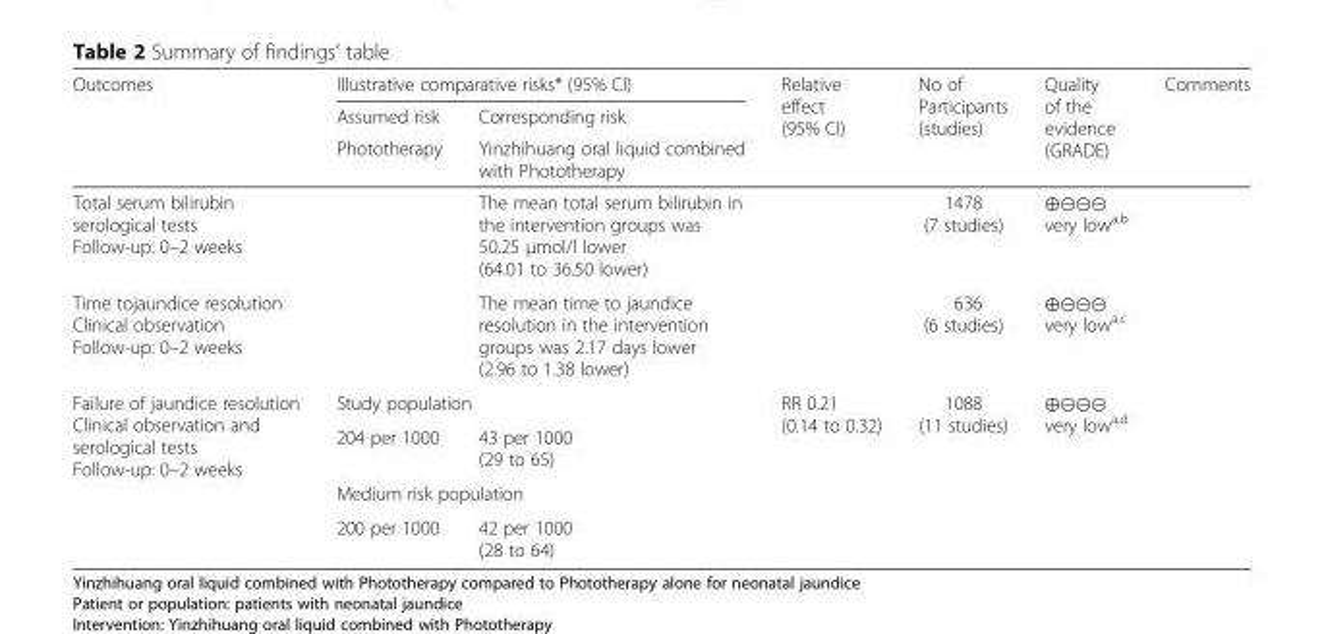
<table><thead><tr><td rowspan="3">Outcomes</td><td colspan="2">Illustrative comparative risks* (95% CI)</td><td rowspan="3">Relative effect (95% CI)</td><td rowspan="3">No of Participants (studies)</td><td rowspan="3">Quality of the evidence (GRADE)</td><td rowspan="3">Comments</td></tr><tr><td rowspan="2">Assumed risk Phototherapy</td><td rowspan="2">Corresponding risk Yinzhihuang oral liquid combined with Phototherapy</td></tr><tr></tr></thead><tbody><tr><td>Total serum bilirubin serological tests Follow-up: 0–2 weeks</td><td></td><td>The mean total serum bilirubin in the intervention groups was 50.25 μmol/l lower (64.01 to 36.50 lower)</td><td></td><td>1478 (7 studies)</td><td>⊕⊝⊝⊝ very low<sup>a,b</sup></td><td></td></tr><tr><td>Time tojaundice resolution Clinical observation Follow-up: 0–2 weeks</td><td></td><td>The mean time to jaundice resolution in the intervention groups was 2.17 days lower (2.96 to 1.38 lower)</td><td></td><td>636 (6 studies)</td><td>⊕⊝⊝⊝ very low<sup>a,c</sup></td><td></td></tr><tr><td rowspan="4">Failure of jaundice resolution Clinical observation and serological tests Follow-up: 0–2 weeks</td><td colspan="2">Study population</td><td rowspan="4">RR 0.21 (0.14 to 0.32)</td><td rowspan="4">1088 (11 studies)</td><td rowspan="4">⊕⊝⊝⊝ very low<sup>a,d</sup></td><td rowspan="4"></td></tr><tr><td>204 per 1000</td><td>43 per 1000 (29 to 65)</td></tr><tr><td colspan="2">Medium risk population</td></tr><tr><td>200 per 1000</td><td>42 per 1000 (28 to 64)</td></tr></tbody></table>